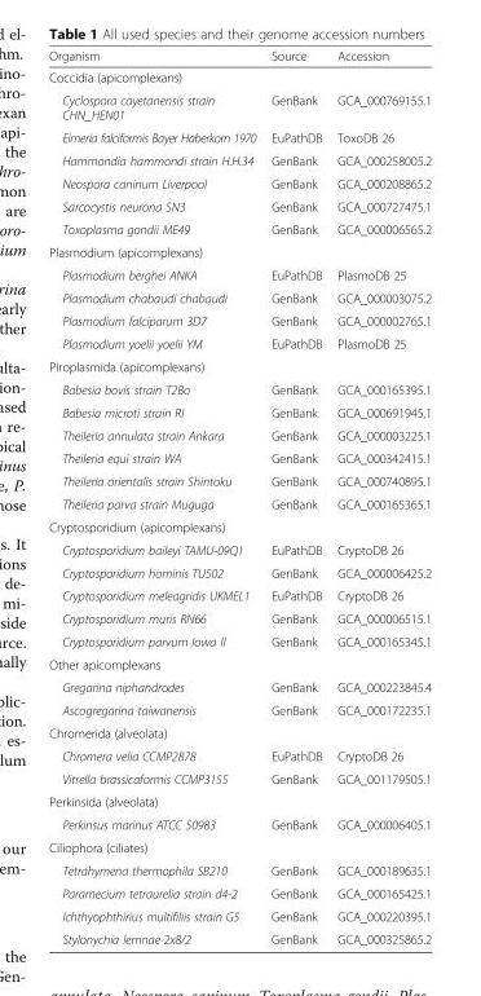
<table><thead><tr><td>Organism</td><td>Source</td><td>Accession</td></tr></thead><tbody><tr><td colspan="3">Coccidia (apicomplexans)</td></tr><tr><td>Cyclospora cayetanensis strain CHN_HEN01</td><td>GenBank</td><td>GCA_000769155.1</td></tr><tr><td>Eimeria falciformis Bayer Haberkorn 1970</td><td>EuPathDB</td><td>ToxoDB 26</td></tr><tr><td>Hammondia hammondi strain H.H.34</td><td>GenBank</td><td>GCA_000258005.2</td></tr><tr><td>Neospora caninum Liverpool</td><td>GenBank</td><td>GCA_000208865.2</td></tr><tr><td>Sarcocystis neurona SN3</td><td>GenBank</td><td>GCA_000727475.1</td></tr><tr><td>Toxoplasma gondii ME49</td><td>GenBank</td><td>GCA_000006565.2</td></tr><tr><td colspan="3">Plasmodium (apicomplexans)</td></tr><tr><td>Plasmodium berghei ANKA</td><td>EuPathDB</td><td>PlasmoDB 25</td></tr><tr><td>Plasmodium chabaudi chabaudi</td><td>GenBank</td><td>GCA_000003075.2</td></tr><tr><td>Plasmodium falciparum 3D7</td><td>GenBank</td><td>GCA_000002765.1</td></tr><tr><td>Plasmodium yoelii yoelii YM</td><td>EuPathDB</td><td>PlasmoDB 25</td></tr><tr><td colspan="3">Piroplasmida (apicomplexans)</td></tr><tr><td>Babesia bovis strain T2Bo</td><td>GenBank</td><td>GCA_000165395.1</td></tr><tr><td>Babesia microti strain RI</td><td>GenBank</td><td>GCA_000691945.1</td></tr><tr><td>Theileria annulata strain Ankara</td><td>GenBank</td><td>GCA_000003225.1</td></tr><tr><td>Theileria equi strain WA</td><td>GenBank</td><td>GCA_000342415.1</td></tr><tr><td>Theileria orientalis strain Shintoku</td><td>GenBank</td><td>GCA_000740895.1</td></tr><tr><td>Theileria parva strain Muguga</td><td>GenBank</td><td>GCA_000165365.1</td></tr><tr><td colspan="3">Cryptosporidium (apicomplexans)</td></tr><tr><td>Cryptosporidium baileyi TAMU-09Q1</td><td>EuPathDB</td><td>CryptoDB 26</td></tr><tr><td>Cryptosporidium hominis TU502</td><td>GenBank</td><td>GCA_000006425.2</td></tr><tr><td>Cryptosporidium meleagridis UKMEL1</td><td>EuPathDB</td><td>CryptoDB 26</td></tr><tr><td>Cryptosporidium muris RN66</td><td>GenBank</td><td>GCA_000006515.1</td></tr><tr><td>Cryptosporidium parvum Iowa II</td><td>GenBank</td><td>GCA_000165345.1</td></tr><tr><td colspan="3">Other apicomplexans</td></tr><tr><td>Gregarina niphandrodes</td><td>GenBank</td><td>GCA_000223845.4</td></tr><tr><td>Ascogregarina taiwanensis</td><td>GenBank</td><td>GCA_000172235.1</td></tr><tr><td colspan="3">Chromerida (alveolata)</td></tr><tr><td>Chromera velia CCMP2878</td><td>EuPathDB</td><td>CryptoDB 26</td></tr><tr><td>Vitrella brassicaformis CCMP3155</td><td>GenBank</td><td>GCA_001179505.1</td></tr><tr><td colspan="3">Perkinsida (alveolata)</td></tr><tr><td>Perkinsus marinus ATCC 50983</td><td>GenBank</td><td>GCA_000006405.1</td></tr><tr><td colspan="3">Ciliophora (ciliates)</td></tr><tr><td>Tetrahymena thermophila SB210</td><td>GenBank</td><td>GCA_000189635.1</td></tr><tr><td>Paramecium tetraurelia strain d4-2</td><td>GenBank</td><td>GCA_000165425.1</td></tr><tr><td>Ichthyophthirius multifiliis strain G5</td><td>GenBank</td><td>GCA_000220395.1</td></tr><tr><td>Stylonychia lemnae 2x8/2</td><td>GenBank</td><td>GCA_000325865.2</td></tr></tbody></table>